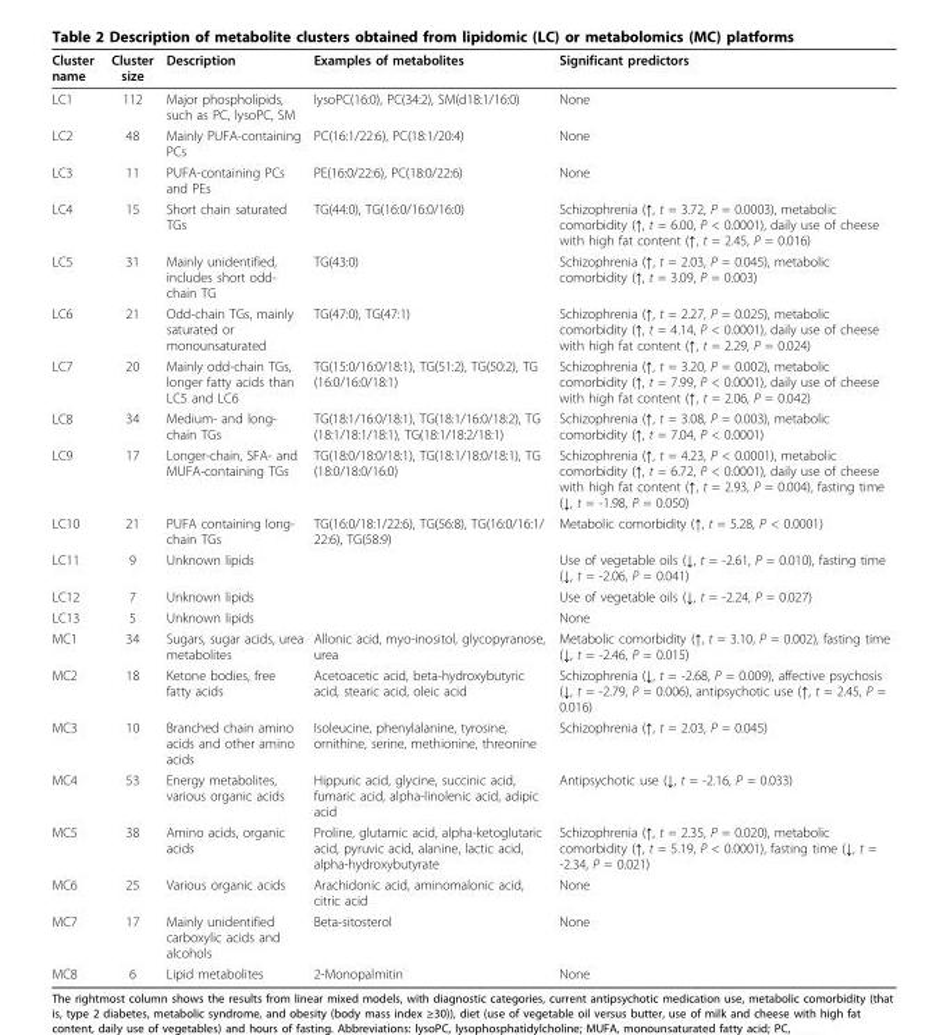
<table><thead><tr><td>Cluster name</td><td>Cluster size</td><td>Description</td><td>Examples of metabolites</td><td>Significant predictors</td></tr></thead><tbody><tr><td>LC1</td><td>112</td><td>Major phospholipids, such as PC, lysoPC, SM</td><td>lysoPC(16:0), PC(34:2), SM(d18:1/16:0)</td><td>None</td></tr><tr><td>LC2</td><td>48</td><td>Mainly PUFA-containing PCs</td><td>PC(16:1/22:6), PC(18:1/20:4)</td><td>None</td></tr><tr><td>LC3</td><td>11</td><td>PUFA-containing PCs and PEs</td><td>PE(16:0/22:6), PC(18:0/22:6)</td><td>None</td></tr><tr><td>LC4</td><td>15</td><td>Short chain saturated TGs</td><td>TG(44:0), TG(16:0/16:0/16:0)</td><td>Schizophrenia (↑, t = 3.72, P = 0.0003), metabolic comorbidity (↑, t = 6.00, P &lt; 0.0001), daily use of cheese with high fat content (↑, t = 2.45, P = 0.016)</td></tr><tr><td>LC5</td><td>31</td><td>Mainly unidentified, includes short odd- chain TG</td><td>TG(43:0)</td><td>Schizophrenia (↑, t = 2.03, P = 0.045), metabolic comorbidity (↑, t = 3.09, P = 0.003)</td></tr><tr><td>LC6</td><td>21</td><td>Odd-chain TGs, mainly saturated or monounsaturated</td><td>TG(47:0), TG(47:1)</td><td>Schizophrenia (↑, t = 2.27, P = 0.025), metabolic comorbidity (↑, t = 4.14, P &lt; 0.0001), daily use of cheese with high fat content (↑, t = 2.29, P = 0.024)</td></tr><tr><td>LC7</td><td>20</td><td>Mainly odd-chain TGs, longer fatty acids than LC5 and LC6</td><td>TG(15:0/16:0/18:1), TG(51:2), TG(50:2), TG (16:0/16:0/18:1)</td><td>Schizophrenia (↑, t = 3.20, P = 0.002), metabolic comorbidity (↑, t = 7.99, P &lt; 0.0001), daily use of cheese with high fat content (↑, t = 2.06, P = 0.042)</td></tr><tr><td>LC8</td><td>34</td><td>Medium- and long- chain TGs</td><td>TG(18:1/16:0/18:1), TG(18:1/16:0/18:2), TG (18:1/18:1/18:1), TG(18:1/18:2/18:1)</td><td>Schizophrenia (↑, t = 3.08, P = 0.003), metabolic comorbidity (↑, t = 7.04, P &lt; 0.0001)</td></tr><tr><td>LC9</td><td>17</td><td>Longer-chain, SFA- and MUFA-containing TGs</td><td>TG(18:0/18:0/18:1), TG(18:1/18:0/18:1), TG (18:0/18:0/16:0)</td><td>Schizophrenia (↑, t = 4.23, P &lt; 0.0001), metabolic comorbidity (↑, t = 6.72, P &lt; 0.0001), daily use of cheese with high fat content (↑, t = 2.93, P = 0.004), fasting time (↓, t = -1.98, P = 0.050)</td></tr><tr><td>LC10</td><td>21</td><td>PUFA containing long- chain TGs</td><td>TG(16:0/18:1/22:6), TG(56:8), TG(16:0/16:1/ 22:6), TG(58:9)</td><td>Metabolic comorbidity (↑, t = 5.28, P &lt; 0.0001)</td></tr><tr><td>LC11</td><td>9</td><td>Unknown lipids</td><td></td><td>Use of vegetable oils (↓, t = -2.61, P = 0.010), fasting time (↓, t = -2.06, P = 0.041)</td></tr><tr><td>LC12</td><td>7</td><td>Unknown lipids</td><td></td><td>Use of vegetable oils (↓, t = -2.24, P = 0.027)</td></tr><tr><td>LC13</td><td>5</td><td>Unknown lipids</td><td></td><td>None</td></tr><tr><td>MC1</td><td>34</td><td>Sugars, sugar acids, urea metabolites</td><td>Allonic acid, myo-inositol, glycopyranose, urea</td><td>Metabolic comorbidity (↑, t = 3.10, P = 0.002), fasting time (↓, t = -2.46, P = 0.015)</td></tr><tr><td>MC2</td><td>18</td><td>Ketone bodies, free fatty acids</td><td>Acetoacetic acid, beta-hydroxybutyric acid, stearic acid, oleic acid</td><td>Schizophrenia (↓, t = -2.68, P = 0.009), affective psychosis (↓, t = -2.79, P = 0.006), antipsychotic use (↑, t = 2.45, P = 0.016)</td></tr><tr><td>MC3</td><td>10</td><td>Branched chain amino acids and other amino acids</td><td>Isoleucine, phenylalanine, tyrosine, ornithine, serine, methionine, threonine</td><td>Schizophrenia (↑, t = 2.03, P = 0.045)</td></tr><tr><td>MC4</td><td>53</td><td>Energy metabolites, various organic acids</td><td>Hippuric acid, glycine, succinic acid, fumaric acid, alpha-linolenic acid, adipic acid</td><td>Antipsychotic use (↓, t = -2.16, P = 0.033)</td></tr><tr><td>MC5</td><td>38</td><td>Amino acids, organic acids</td><td>Proline, glutamic acid, alpha-ketoglutaric acid, pyruvic acid, alanine, lactic acid, alpha-hydroxybutyrate</td><td>Schizophrenia (↑, t = 2.35, P = 0.020), metabolic comorbidity (↑, t = 5.19, P &lt; 0.0001), fasting time (↓, t = -2.34, P = 0.021)</td></tr><tr><td>MC6</td><td>25</td><td>Various organic acids</td><td>Arachidonic acid, aminomalonic acid, citric acid</td><td>None</td></tr><tr><td>MC7</td><td>17</td><td>Mainly unidentified carboxylic acids and alcohols</td><td>Beta-sitosterol</td><td>None</td></tr><tr><td>MC8</td><td>6</td><td>Lipid metabolites</td><td>2-Monopalmitin</td><td>None</td></tr></tbody></table>